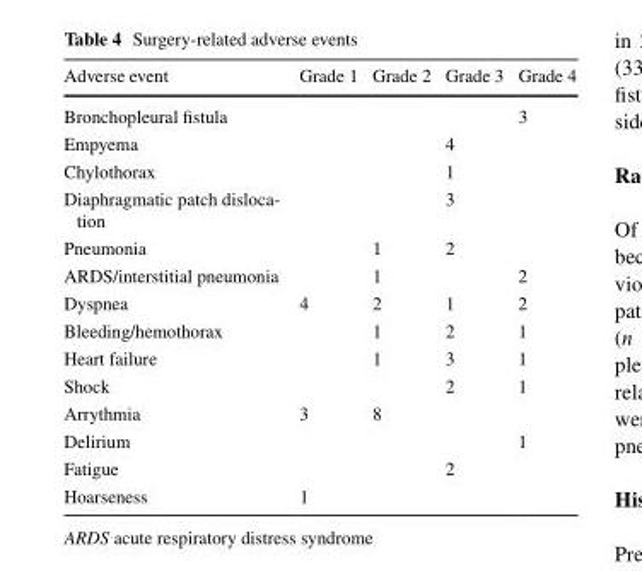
<table><thead><tr><td>Adverse event</td><td>Grade 1</td><td>Grade 2</td><td>Grade 3</td><td>Grade 4</td></tr></thead><tbody><tr><td>Bronchopleural fistula</td><td></td><td></td><td></td><td>3</td></tr><tr><td>Empyema</td><td></td><td></td><td>4</td><td></td></tr><tr><td>Chylothorax</td><td></td><td></td><td>1</td><td></td></tr><tr><td>Diaphragmatic patch disloca- tion</td><td></td><td></td><td>3</td><td></td></tr><tr><td>Pneumonia</td><td></td><td>1</td><td>2</td><td></td></tr><tr><td>ARDS/interstitial pneumonia</td><td></td><td>1</td><td></td><td>2</td></tr><tr><td>Dyspnea</td><td>4</td><td>2</td><td>1</td><td>2</td></tr><tr><td>Bleeding/hemothorax</td><td></td><td>1</td><td>2</td><td>1</td></tr><tr><td>Heart failure</td><td></td><td>1</td><td>3</td><td>1</td></tr><tr><td>Shock</td><td></td><td></td><td>2</td><td>1</td></tr><tr><td>Arrythmia</td><td>3</td><td>8</td><td></td><td></td></tr><tr><td>Delirium</td><td></td><td></td><td></td><td>1</td></tr><tr><td>Fatigue</td><td></td><td></td><td>2</td><td></td></tr><tr><td>Hoarseness</td><td>1</td><td></td><td></td><td></td></tr></tbody></table>